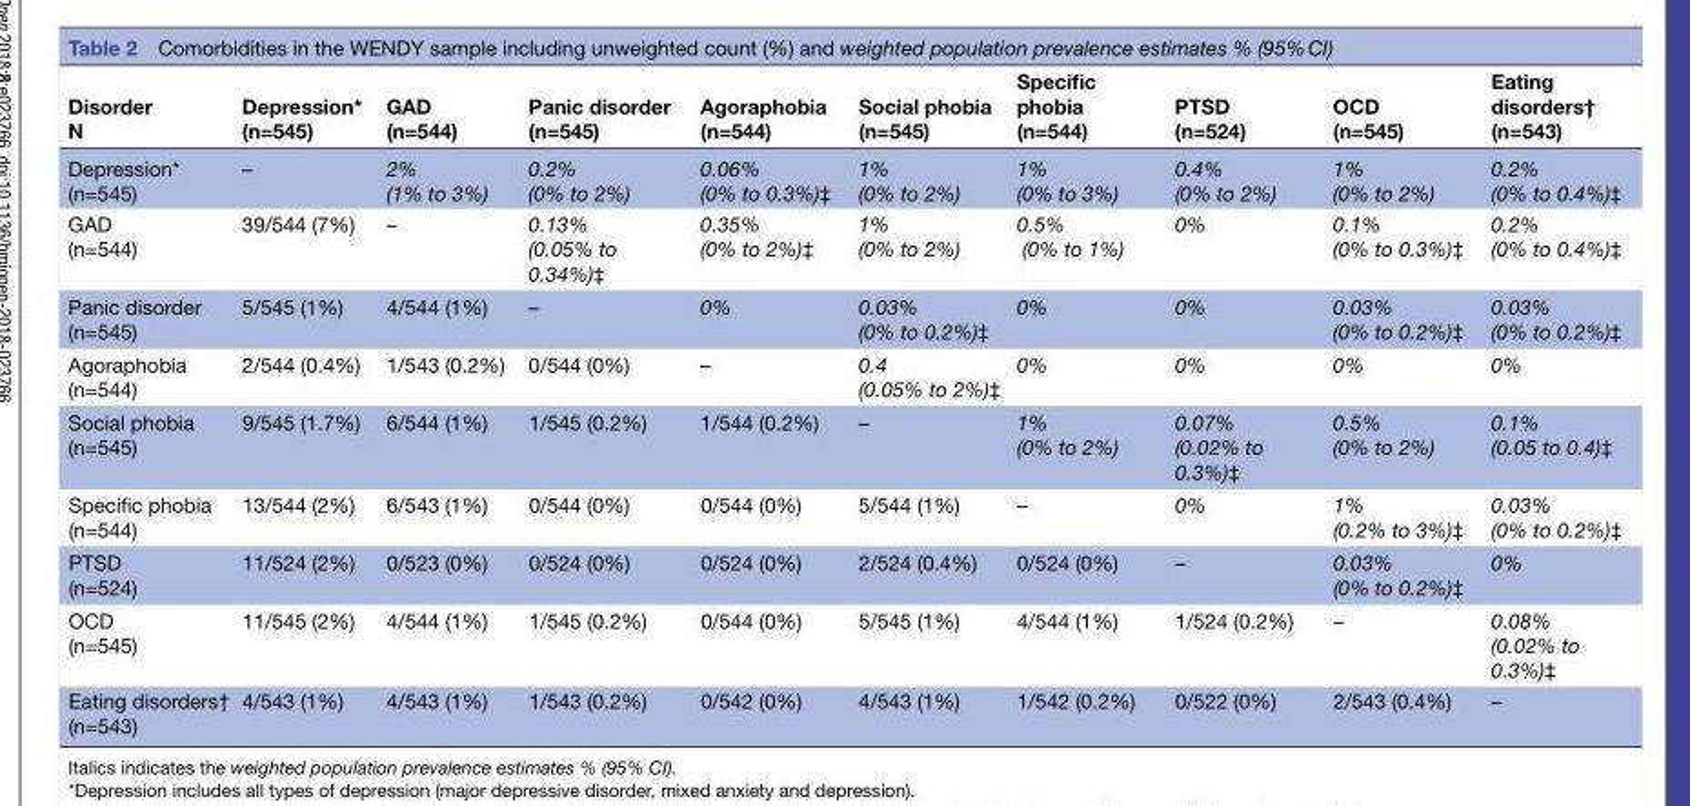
<table><thead><tr><td>Disorder N</td><td>Depression* (n=545)</td><td>GAD (n=544)</td><td>Panic disorder (n=545)</td><td>Agoraphobia (n=544)</td><td>Social phobia (n=545)</td><td>Specific phobia (n=544)</td><td>PTSD (n=524)</td><td>OCD (n=545)</td><td>Eating disorders† (n=543)</td></tr></thead><tbody><tr><td>Depression* (n=545)</td><td>–</td><td>2% (1% to 3%)</td><td>0.2% (0% to 2%)</td><td>0.06% (0% to 0.3%)‡</td><td>1% (0% to 2%)</td><td>1% (0% to 3%)</td><td>0.4% (0% to 2%)</td><td>1% (0% to 2%)</td><td>0.2% (0% to 0.4%)‡</td></tr><tr><td>GAD (n=544)</td><td>39/544 (7%)</td><td>–</td><td>0.13% (0.05% to 0.34%)‡</td><td>0.35% (0% to 2%)‡</td><td>1% (0% to 2%)</td><td>0.5% (0% to 1%)</td><td>0%</td><td>0.1% (0% to 0.3%)‡</td><td>0.2% (0% to 0.4%)‡</td></tr><tr><td>Panic disorder (n=545)</td><td>5/545 (1%)</td><td>4/544 (1%)</td><td>–</td><td>0%</td><td>0.03% (0% to 0.2%)‡</td><td>0%</td><td>0%</td><td>0.03% (0% to 0.2%)‡</td><td>0.03% (0% to 0.2%)‡</td></tr><tr><td>Agoraphobia (n=544)</td><td>2/544 (0.4%)</td><td>1/543 (0.2%)</td><td>0/544 (0%)</td><td>–</td><td>0.4 (0.05% to 2%)‡</td><td>0%</td><td>0%</td><td>0%</td><td>0%</td></tr><tr><td>Social phobia (n=545)</td><td>9/545 (1.7%)</td><td>6/544 (1%)</td><td>1/545 (0.2%)</td><td>1/544 (0.2%)</td><td>–</td><td>1% (0% to 2%)</td><td>0.07% (0.02% to 0.3%)‡</td><td>0.5% (0% to 2%)</td><td>0.1% (0.05 to 0.4)‡</td></tr><tr><td>Specific phobia (n=544)</td><td>13/544 (2%)</td><td>6/543 (1%)</td><td>0/544 (0%)</td><td>0/544 (0%)</td><td>5/544 (1%)</td><td>–</td><td>0%</td><td>1% (0.2% to 3%)‡</td><td>0.03% (0% to 0.2%)‡</td></tr><tr><td>PTSD (n=524)</td><td>11/524 (2%)</td><td>0/523 (0%)</td><td>0/524 (0%)</td><td>0/524 (0%)</td><td>2/524 (0.4%)</td><td>0/524 (0%)</td><td>–</td><td>0.03% (0% to 0.2%)‡</td><td>0%</td></tr><tr><td>OCD (n=545)</td><td>11/545 (2%)</td><td>4/544 (1%)</td><td>1/545 (0.2%)</td><td>0/544 (0%)</td><td>5/545 (1%)</td><td>4/544 (1%)</td><td>1/524 (0.2%)</td><td>–</td><td>0.08% (0.02% to 0.3%)‡</td></tr><tr><td>Eating disorders† (n=543)</td><td>4/543 (1%)</td><td>4/543 (1%)</td><td>1/543 (0.2%)</td><td>0/542 (0%)</td><td>4/543 (1%)</td><td>1/542 (0.2%)</td><td>0/522 (0%)</td><td>2/543 (0.4%)</td><td>–</td></tr></tbody></table>